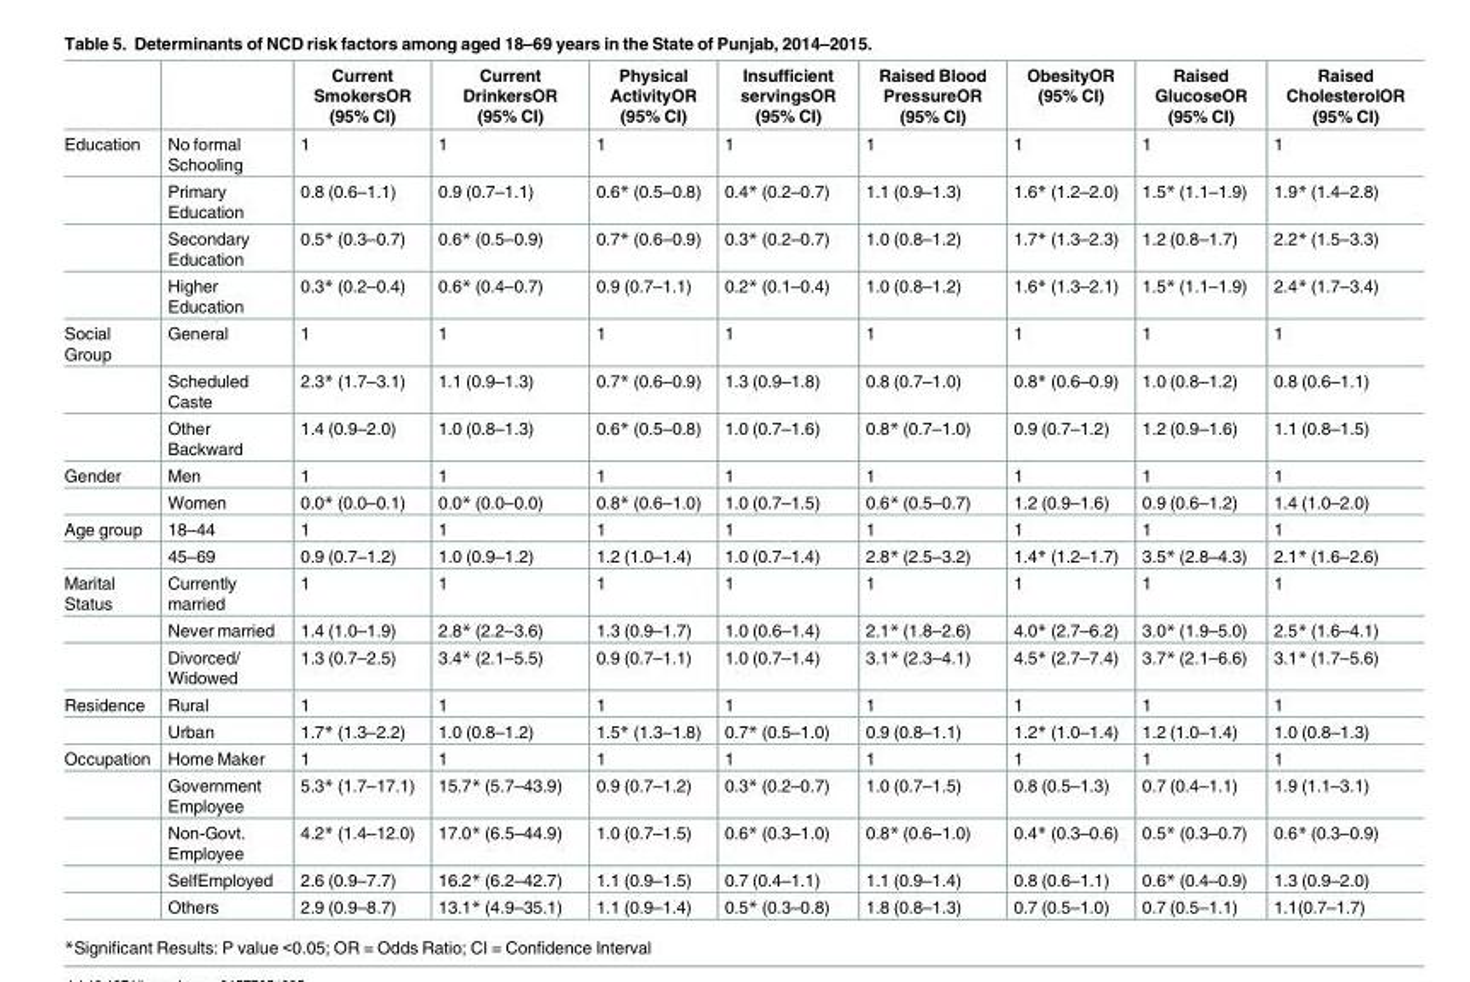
<table><thead><tr><td></td><td></td><td>Current SmokersOR (95% CI)</td><td>Current DrinkersOR (95% CI)</td><td>Physical ActivityOR (95% CI)</td><td>Insufficient servingsOR (95% CI)</td><td>Raised Blood PressureOR (95% CI)</td><td>ObesityOR (95% CI)</td><td>Raised GlucoseOR (95% CI)</td><td>Raised CholesterolOR (95% CI)</td></tr></thead><tbody><tr><td rowspan="4">Education</td><td>No formal Schooling</td><td>1</td><td>1</td><td>1</td><td>1</td><td>1</td><td>1</td><td>1</td><td>1</td></tr><tr><td>Primary Education</td><td>0.8 (0.6–1.1)</td><td>0.9 (0.7–1.1)</td><td>0.6* (0.5–0.8)</td><td>0.4* (0.2–0.7)</td><td>1.1 (0.9–1.3)</td><td>1.6* (1.2–2.0)</td><td>1.5* (1.1–1.9)</td><td>1.9* (1.4–2.8)</td></tr><tr><td>Secondary Education</td><td>0.5* (0.3–0.7)</td><td>0.6* (0.5–0.9)</td><td>0.7* (0.6–0.9)</td><td>0.3* (0.2–0.7)</td><td>1.0 (0.8–1.2)</td><td>1.7* (1.3–2.3)</td><td>1.2 (0.8–1.7)</td><td>2.2* (1.5–3.3)</td></tr><tr><td>Higher Education</td><td>0.3* (0.2–0.4)</td><td>0.6* (0.4–0.7)</td><td>0.9 (0.7–1.1)</td><td>0.2* (0.1–0.4)</td><td>1.0 (0.8–1.2)</td><td>1.6* (1.3–2.1)</td><td>1.5* (1.1–1.9)</td><td>2.4* (1.7–3.4)</td></tr><tr><td rowspan="3">Social Group</td><td>General</td><td>1</td><td>1</td><td>1</td><td>1</td><td>1</td><td>1</td><td>1</td><td>1</td></tr><tr><td>Scheduled Caste</td><td>2.3* (1.7–3.1)</td><td>1.1 (0.9–1.3)</td><td>0.7* (0.6–0.9)</td><td>1.3 (0.9–1.8)</td><td>0.8 (0.7–1.0)</td><td>0.8* (0.6–0.9)</td><td>1.0 (0.8–1.2)</td><td>0.8 (0.6–1.1)</td></tr><tr><td>Other Backward</td><td>1.4 (0.9–2.0)</td><td>1.0 (0.8–1.3)</td><td>0.6* (0.5–0.8)</td><td>1.0 (0.7–1.6)</td><td>0.8* (0.7–1.0)</td><td>0.9 (0.7–1.2)</td><td>1.2 (0.9–1.6)</td><td>1.1 (0.8–1.5)</td></tr><tr><td rowspan="2">Gender</td><td>Men</td><td>1</td><td>1</td><td>1</td><td>1</td><td>1</td><td>1</td><td>1</td><td>1</td></tr><tr><td>Women</td><td>0.0* (0.0–0.1)</td><td>0.0* (0.0–0.0)</td><td>0.8* (0.6–1.0)</td><td>1.0 (0.7–1.5)</td><td>0.6* (0.5–0.7)</td><td>1.2 (0.9–1.6)</td><td>0.9 (0.6–1.2)</td><td>1.4 (1.0–2.0)</td></tr><tr><td rowspan="2">Age group</td><td>18–44</td><td>1</td><td>1</td><td>1</td><td>1</td><td>1</td><td>1</td><td>1</td><td>1</td></tr><tr><td>45–69</td><td>0.9 (0.7–1.2)</td><td>1.0 (0.9–1.2)</td><td>1.2 (1.0–1.4)</td><td>1.0 (0.7–1.4)</td><td>2.8* (2.5–3.2)</td><td>1.4* (1.2–1.7)</td><td>3.5* (2.8–4.3)</td><td>2.1* (1.6–2.6)</td></tr><tr><td rowspan="3">Marital Status</td><td>Currently married</td><td>1</td><td>1</td><td>1</td><td>1</td><td>1</td><td>1</td><td>1</td><td>1</td></tr><tr><td>Never married</td><td>1.4 (1.0–1.9)</td><td>2.8* (2.2–3.6)</td><td>1.3 (0.9–1.7)</td><td>1.0 (0.6–1.4)</td><td>2.1* (1.8–2.6)</td><td>4.0* (2.7–6.2)</td><td>3.0* (1.9–5.0)</td><td>2.5* (1.6–4.1)</td></tr><tr><td>Divorced/ Widowed</td><td>1.3 (0.7–2.5)</td><td>3.4* (2.1–5.5)</td><td>0.9 (0.7–1.1)</td><td>1.0 (0.7–1.4)</td><td>3.1* (2.3–4.1)</td><td>4.5* (2.7–7.4)</td><td>3.7* (2.1–6.6)</td><td>3.1* (1.7–5.6)</td></tr><tr><td rowspan="2">Residence</td><td>Rural</td><td>1</td><td>1</td><td>1</td><td>1</td><td>1</td><td>1</td><td>1</td><td>1</td></tr><tr><td>Urban</td><td>1.7* (1.3–2.2)</td><td>1.0 (0.8–1.2)</td><td>1.5* (1.3–1.8)</td><td>0.7* (0.5–1.0)</td><td>0.9 (0.8–1.1)</td><td>1.2* (1.0–1.4)</td><td>1.2 (1.0–1.4)</td><td>1.0 (0.8–1.3)</td></tr><tr><td rowspan="5">Occupation</td><td>Home Maker</td><td>1</td><td>1</td><td>1</td><td>1</td><td>1</td><td>1</td><td>1</td><td>1</td></tr><tr><td>Government Employee</td><td>5.3* (1.7–17.1)</td><td>15.7* (5.7–43.9)</td><td>0.9 (0.7–1.2)</td><td>0.3* (0.2–0.7)</td><td>1.0 (0.7–1.5)</td><td>0.8 (0.5–1.3)</td><td>0.7 (0.4–1.1)</td><td>1.9 (1.1–3.1)</td></tr><tr><td>Non-Govt. Employee</td><td>4.2* (1.4–12.0)</td><td>17.0* (6.5–44.9)</td><td>1.0 (0.7–1.5)</td><td>0.6* (0.3–1.0)</td><td>0.8* (0.6–1.0)</td><td>0.4* (0.3–0.6)</td><td>0.5* (0.3–0.7)</td><td>0.6* (0.3–0.9)</td></tr><tr><td>SelfEmployed</td><td>2.6 (0.9–7.7)</td><td>16.2* (6.2–42.7)</td><td>1.1 (0.9–1.5)</td><td>0.7 (0.4–1.1)</td><td>1.1 (0.9–1.4)</td><td>0.8 (0.6–1.1)</td><td>0.6* (0.4–0.9)</td><td>1.3 (0.9–2.0)</td></tr><tr><td>Others</td><td>2.9 (0.9–8.7)</td><td>13.1* (4.9–35.1)</td><td>1.1 (0.9–1.4)</td><td>0.5* (0.3–0.8)</td><td>1.8 (0.8–1.3)</td><td>0.7 (0.5–1.0)</td><td>0.7 (0.5–1.1)</td><td>1.1(0.7–1.7)</td></tr></tbody></table>